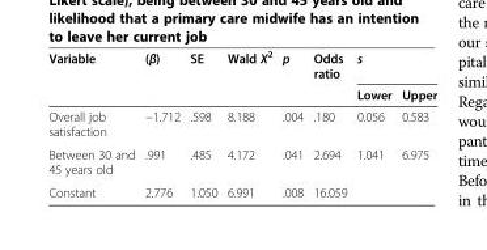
<table><thead><tr><td rowspan="2">Variable</td><td rowspan="2">(β)</td><td rowspan="2">SE</td><td rowspan="2">Wald Χ<sup>2</sup></td><td rowspan="2">p</td><td rowspan="2">Odds ratio</td><td colspan="2">s</td></tr><tr><td>Lower</td><td>Upper</td></tr></thead><tbody><tr><td>Overall job satisfaction</td><td>−1.712</td><td>.598</td><td>8.188</td><td>.004</td><td>.180</td><td>0.056</td><td>0.583</td></tr><tr><td>Between 30 and 45 years old</td><td>.991</td><td>.485</td><td>4.172</td><td>.041</td><td>2.694</td><td>1.041</td><td>6.975</td></tr><tr><td>Constant</td><td>2.776</td><td>1.050</td><td>6.991</td><td>.008</td><td>16.059</td><td></td><td></td></tr></tbody></table>